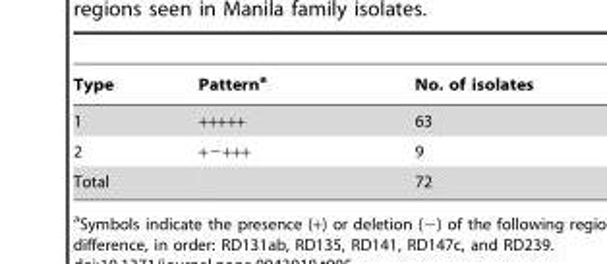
<table><thead><tr><td>Type</td><td>Pattern<sup>a</sup></td><td>No. of isolates</td></tr></thead><tbody><tr><td>1</td><td>+++++</td><td>63</td></tr><tr><td>2</td><td>+−+++</td><td>9</td></tr><tr><td>Total</td><td></td><td>72</td></tr></tbody></table>